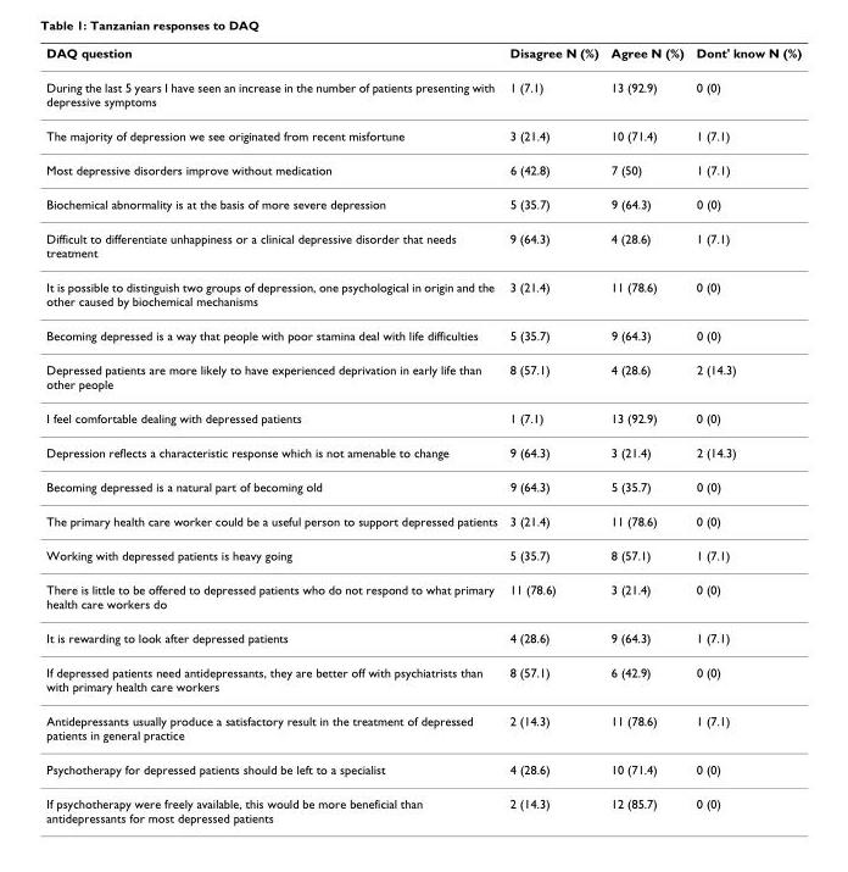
<table><thead><tr><td>DAQ question</td><td>Disagree N (%)</td><td>Agree N (%)</td><td>Dont&#x27; know N (%)</td></tr></thead><tbody><tr><td>During the last 5 years I have seen an increase in the number of patients presenting with depressive symptoms</td><td>1 (7.1)</td><td>13 (92.9)</td><td>0 (0)</td></tr><tr><td>The majority of depression we see originated from recent misfortune</td><td>3 (21.4)</td><td>10 (71.4)</td><td>1 (7.1)</td></tr><tr><td>Most depressive disorders improve without medication</td><td>6 (42.8)</td><td>7 (50)</td><td>1 (7.1)</td></tr><tr><td>Biochemical abnormality is at the basis of more severe depression</td><td>5 (35.7)</td><td>9 (64.3)</td><td>0 (0)</td></tr><tr><td>Difficult to differentiate unhappiness or a clinical depressive disorder that needs treatment</td><td>9 (64.3)</td><td>4 (28.6)</td><td>1 (7.1)</td></tr><tr><td>It is possible to distinguish two groups of depression, one psychological in origin and the other caused by biochemical mechanisms</td><td>3 (21.4)</td><td>11 (78.6)</td><td>0 (0)</td></tr><tr><td>Becoming depressed is a way that people with poor stamina deal with life difficulties</td><td>5 (35.7)</td><td>9 (64.3)</td><td>0 (0)</td></tr><tr><td>Depressed patients are more likely to have experienced deprivation in early life than other people</td><td>8 (57.1)</td><td>4 (28.6)</td><td>2 (14.3)</td></tr><tr><td>I feel comfortable dealing with depressed patients</td><td>1 (7.1)</td><td>13 (92.9)</td><td>0 (0)</td></tr><tr><td>Depression reflects a characteristic response which is not amenable to change</td><td>9 (64.3)</td><td>3 (21.4)</td><td>2 (14.3)</td></tr><tr><td>Becoming depressed is a natural part of becoming old</td><td>9 (64.3)</td><td>5 (35.7)</td><td>0 (0)</td></tr><tr><td>The primary health care worker could be a useful person to support depressed patients</td><td>3 (21.4)</td><td>11 (78.6)</td><td>0 (0)</td></tr><tr><td>Working with depressed patients is heavy going</td><td>5 (35.7)</td><td>8 (57.1)</td><td>1 (7.1)</td></tr><tr><td>There is little to be offered to depressed patients who do not respond to what primary health care workers do</td><td>11 (78.6)</td><td>3 (21.4)</td><td>0 (0)</td></tr><tr><td>It is rewarding to look after depressed patients</td><td>4 (28.6)</td><td>9 (64.3)</td><td>1 (7.1)</td></tr><tr><td>If depressed patients need antidepressants, they are better off with psychiatrists than with primary health care workers</td><td>8 (57.1)</td><td>6 (42.9)</td><td>0 (0)</td></tr><tr><td>Antidepressants usually produce a satisfactory result in the treatment of depressed patients in general practice</td><td>2 (14.3)</td><td>11 (78.6)</td><td>1 (7.1)</td></tr><tr><td>Psychotherapy for depressed patients should be left to a specialist</td><td>4 (28.6)</td><td>10 (71.4)</td><td>0 (0)</td></tr><tr><td>If psychotherapy were freely available, this would be more beneficial than antidepressants for most depressed patients</td><td>2 (14.3)</td><td>12 (85.7)</td><td>0 (0)</td></tr></tbody></table>